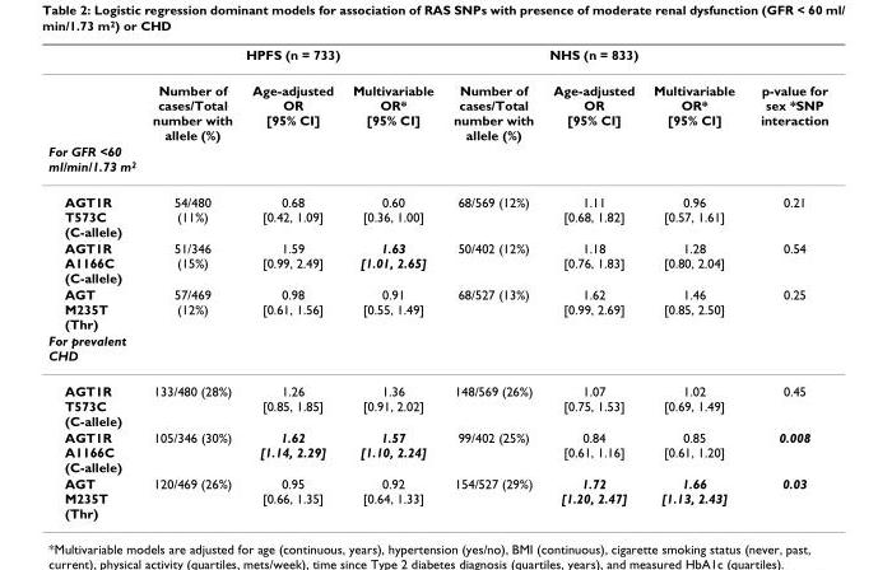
<table><thead><tr><td rowspan="2"></td><td colspan="3">HPFS (n = 733)</td><td colspan="3">NHS (n = 833)</td><td rowspan="2">p-value for sex *SNP interaction</td></tr><tr><td>Number of cases/Total number with allele (%)</td><td>Age-adjusted OR [95% CI]</td><td>Multivariable OR* [95% CI]</td><td>Number of cases/Total number with allele (%)</td><td>Age-adjusted OR [95% CI]</td><td>Multivariable OR* [95% CI]</td></tr></thead><tbody><tr><td colspan="8">For GFR &lt;60 ml/min/1.73 m<sup>2</sup></td></tr><tr><td>AGT1R T573C (C-allele)</td><td>54/480 (11%)</td><td>0.68 [0.42, 1.09]</td><td>0.60 [0.36, 1.00]</td><td>68/569 (12%)</td><td>1.11 [0.68, 1.82]</td><td>0.96 [0.57, 1.61]</td><td>0.21</td></tr><tr><td>AGT1R A1166C (C-allele)</td><td>51/346 (15%)</td><td>1.59 [0.99, 2.49]</td><td>1.63 [1.01, 2.65]</td><td>50/402 (12%)</td><td>1.18 [0.76, 1.83]</td><td>1.28 [0.80, 2.04]</td><td>0.54</td></tr><tr><td>AGT M235T (Thr)</td><td>57/469 (12%)</td><td>0.98 [0.61, 1.56]</td><td>0.91 [0.55, 1.49]</td><td>68/527 (13%)</td><td>1.62 [0.99, 2.69]</td><td>1.46 [0.85, 2.50]</td><td>0.25</td></tr><tr><td colspan="8">For prevalent CHD</td></tr><tr><td>AGT1R T573C (C-allele)</td><td>133/480 (28%)</td><td>1.26 [0.85, 1.85]</td><td>1.36 [0.91, 2.02]</td><td>148/569 (26%)</td><td>1.07 [0.75, 1.53]</td><td>1.02 [0.69, 1.49]</td><td>0.45</td></tr><tr><td>AGT1R A1166C (C-allele)</td><td>105/346 (30%)</td><td>1.62 [1.14, 2.29]</td><td>1.57 [1.10, 2.24]</td><td>99/402 (25%)</td><td>0.84 [0.61, 1.16]</td><td>0.85 [0.61, 1.20]</td><td>0.008</td></tr><tr><td>AGT M235T (Thr)</td><td>120/469 (26%)</td><td>0.95 [0.66, 1.35]</td><td>0.92 [0.64, 1.33]</td><td>154/527 (29%)</td><td>1.72 [1.20, 2.47]</td><td>1.66 [1.13, 2.43]</td><td>0.03</td></tr></tbody></table>